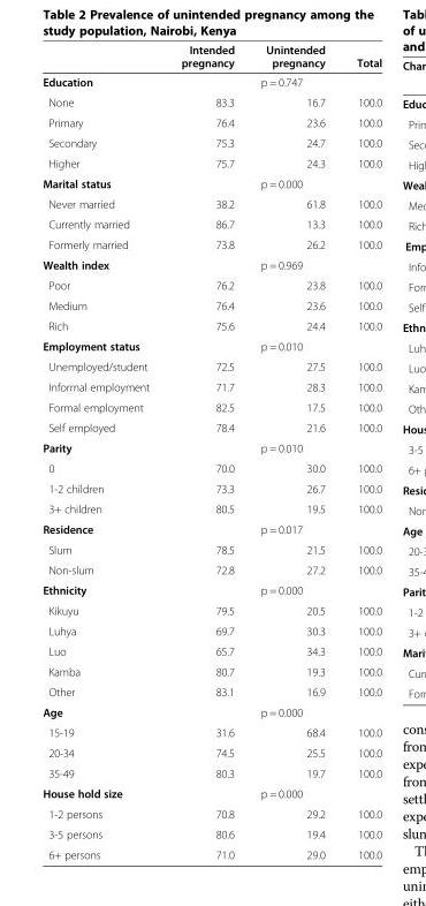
<table><thead><tr><td></td><td>Intended pregnancy</td><td>Unintended pregnancy</td><td>Total</td></tr></thead><tbody><tr><td>Education</td><td colspan="3">p = 0.747</td></tr><tr><td>None</td><td>83.3</td><td>16.7</td><td>100.0</td></tr><tr><td>Primary</td><td>76.4</td><td>23.6</td><td>100.0</td></tr><tr><td>Secondary</td><td>75.3</td><td>24.7</td><td>100.0</td></tr><tr><td>Higher</td><td>75.7</td><td>24.3</td><td>100.0</td></tr><tr><td>Marital status</td><td colspan="3">p = 0.000</td></tr><tr><td>Never married</td><td>38.2</td><td>61.8</td><td>100.0</td></tr><tr><td>Currently married</td><td>86.7</td><td>13.3</td><td>100.0</td></tr><tr><td>Formerly married</td><td>73.8</td><td>26.2</td><td>100.0</td></tr><tr><td>Wealth index</td><td colspan="3">p = 0.969</td></tr><tr><td>Poor</td><td>76.2</td><td>23.8</td><td>100.0</td></tr><tr><td>Medium</td><td>76.4</td><td>23.6</td><td>100.0</td></tr><tr><td>Rich</td><td>75.6</td><td>24.4</td><td>100.0</td></tr><tr><td>Employment status</td><td colspan="3">p = 0.010</td></tr><tr><td>Unemployed/student</td><td>72.5</td><td>27.5</td><td>100.0</td></tr><tr><td>Informal employment</td><td>71.7</td><td>28.3</td><td>100.0</td></tr><tr><td>Formal employment</td><td>82.5</td><td>17.5</td><td>100.0</td></tr><tr><td>Self employed</td><td>78.4</td><td>21.6</td><td>100.0</td></tr><tr><td>Parity</td><td colspan="3">p = 0.010</td></tr><tr><td>0</td><td>70.0</td><td>30.0</td><td>100.0</td></tr><tr><td>1-2 children</td><td>73.3</td><td>26.7</td><td>100.0</td></tr><tr><td>3+ children</td><td>80.5</td><td>19.5</td><td>100.0</td></tr><tr><td>Residence</td><td colspan="3">p = 0.017</td></tr><tr><td>Slum</td><td>78.5</td><td>21.5</td><td>100.0</td></tr><tr><td>Non-slum</td><td>72.8</td><td>27.2</td><td>100.0</td></tr><tr><td>Ethnicity</td><td colspan="3">p = 0.000</td></tr><tr><td>Kikuyu</td><td>79.5</td><td>20.5</td><td>100.0</td></tr><tr><td>Luhya</td><td>69.7</td><td>30.3</td><td>100.0</td></tr><tr><td>Luo</td><td>65.7</td><td>34.3</td><td>100.0</td></tr><tr><td>Kamba</td><td>80.7</td><td>19.3</td><td>100.0</td></tr><tr><td>Other</td><td>83.1</td><td>16.9</td><td>100.0</td></tr><tr><td>Age</td><td colspan="3">p = 0.000</td></tr><tr><td>15-19</td><td>31.6</td><td>68.4</td><td>100.0</td></tr><tr><td>20-34</td><td>74.5</td><td>25.5</td><td>100.0</td></tr><tr><td>35-49</td><td>80.3</td><td>19.7</td><td>100.0</td></tr><tr><td>House hold size</td><td colspan="3">p = 0.000</td></tr><tr><td>1-2 persons</td><td>70.8</td><td>29.2</td><td>100.0</td></tr><tr><td>3-5 persons</td><td>80.6</td><td>19.4</td><td>100.0</td></tr><tr><td>6+ persons</td><td>71.0</td><td>29.0</td><td>100.0</td></tr></tbody></table>